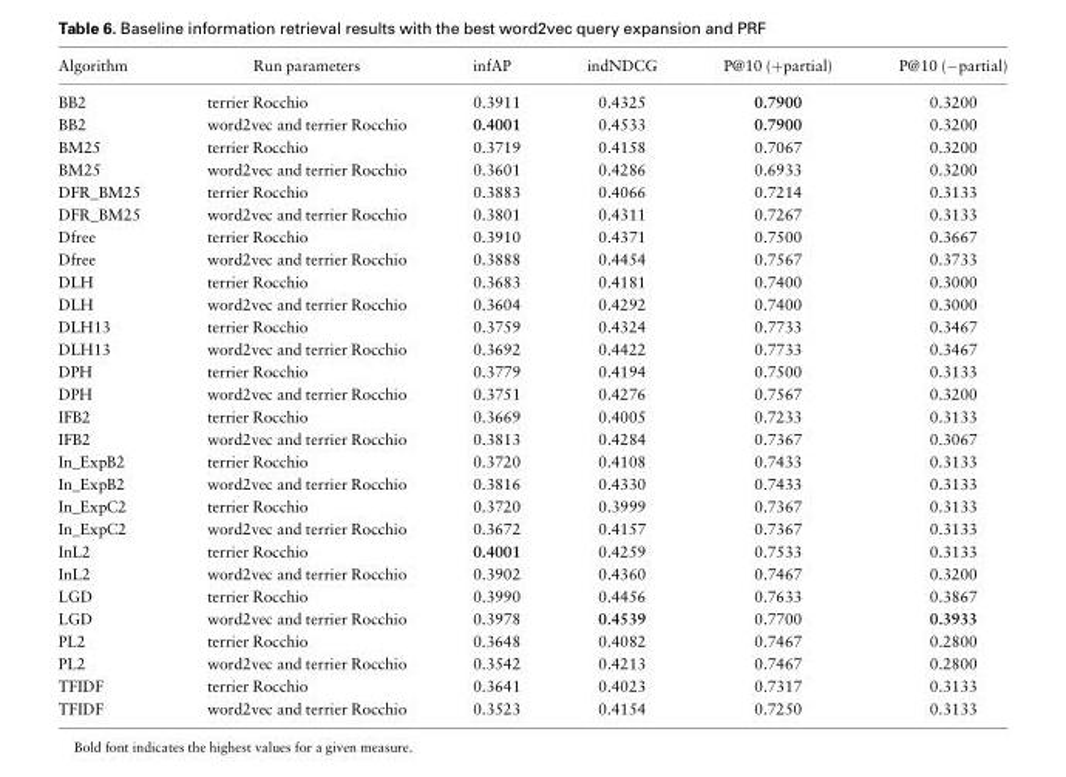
<table><thead><tr><td>Algorithm</td><td>Run parameters</td><td>infAP</td><td>indNDCG</td><td>P@10 (+partial)</td><td>P@10 (−partial)</td></tr></thead><tbody><tr><td>BB2</td><td>terrier Rocchio</td><td>0.3911</td><td>0.4325</td><td>0.7900</td><td>0.3200</td></tr><tr><td>BB2</td><td>word2vec and terrier Rocchio</td><td>0.4001</td><td>0.4533</td><td>0.7900</td><td>0.3200</td></tr><tr><td>BM25</td><td>terrier Rocchio</td><td>0.3719</td><td>0.4158</td><td>0.7067</td><td>0.3200</td></tr><tr><td>BM25</td><td>word2vec and terrier Rocchio</td><td>0.3601</td><td>0.4286</td><td>0.6933</td><td>0.3200</td></tr><tr><td>DFR_BM25</td><td>terrier Rocchio</td><td>0.3883</td><td>0.4066</td><td>0.7214</td><td>0.3133</td></tr><tr><td>DFR_BM25</td><td>word2vec and terrier Rocchio</td><td>0.3801</td><td>0.4311</td><td>0.7267</td><td>0.3133</td></tr><tr><td>Dfree</td><td>terrier Rocchio</td><td>0.3910</td><td>0.4371</td><td>0.7500</td><td>0.3667</td></tr><tr><td>Dfree</td><td>word2vec and terrier Rocchio</td><td>0.3888</td><td>0.4454</td><td>0.7567</td><td>0.3733</td></tr><tr><td>DLH</td><td>terrier Rocchio</td><td>0.3683</td><td>0.4181</td><td>0.7400</td><td>0.3000</td></tr><tr><td>DLH</td><td>word2vec and terrier Rocchio</td><td>0.3604</td><td>0.4292</td><td>0.7400</td><td>0.3000</td></tr><tr><td>DLH13</td><td>terrier Rocchio</td><td>0.3759</td><td>0.4324</td><td>0.7733</td><td>0.3467</td></tr><tr><td>DLH13</td><td>word2vec and terrier Rocchio</td><td>0.3692</td><td>0.4422</td><td>0.7733</td><td>0.3467</td></tr><tr><td>DPH</td><td>terrier Rocchio</td><td>0.3779</td><td>0.4194</td><td>0.7500</td><td>0.3133</td></tr><tr><td>DPH</td><td>word2vec and terrier Rocchio</td><td>0.3751</td><td>0.4276</td><td>0.7567</td><td>0.3200</td></tr><tr><td>IFB2</td><td>terrier Rocchio</td><td>0.3669</td><td>0.4005</td><td>0.7233</td><td>0.3133</td></tr><tr><td>IFB2</td><td>word2vec and terrier Rocchio</td><td>0.3813</td><td>0.4284</td><td>0.7367</td><td>0.3067</td></tr><tr><td>In_ExpB2</td><td>terrier Rocchio</td><td>0.3720</td><td>0.4108</td><td>0.7433</td><td>0.3133</td></tr><tr><td>In_ExpB2</td><td>word2vec and terrier Rocchio</td><td>0.3816</td><td>0.4330</td><td>0.7433</td><td>0.3133</td></tr><tr><td>In_ExpC2</td><td>terrier Rocchio</td><td>0.3720</td><td>0.3999</td><td>0.7367</td><td>0.3133</td></tr><tr><td>In_ExpC2</td><td>word2vec and terrier Rocchio</td><td>0.3672</td><td>0.4157</td><td>0.7367</td><td>0.3133</td></tr><tr><td>InL2</td><td>terrier Rocchio</td><td>0.4001</td><td>0.4259</td><td>0.7533</td><td>0.3133</td></tr><tr><td>InL2</td><td>word2vec and terrier Rocchio</td><td>0.3902</td><td>0.4360</td><td>0.7467</td><td>0.3200</td></tr><tr><td>LGD</td><td>terrier Rocchio</td><td>0.3990</td><td>0.4456</td><td>0.7633</td><td>0.3867</td></tr><tr><td>LGD</td><td>word2vec and terrier Rocchio</td><td>0.3978</td><td>0.4539</td><td>0.7700</td><td>0.3933</td></tr><tr><td>PL2</td><td>terrier Rocchio</td><td>0.3648</td><td>0.4082</td><td>0.7467</td><td>0.2800</td></tr><tr><td>PL2</td><td>word2vec and terrier Rocchio</td><td>0.3542</td><td>0.4213</td><td>0.7467</td><td>0.2800</td></tr><tr><td>TFIDF</td><td>terrier Rocchio</td><td>0.3641</td><td>0.4023</td><td>0.7317</td><td>0.3133</td></tr><tr><td>TFIDF</td><td>word2vec and terrier Rocchio</td><td>0.3523</td><td>0.4154</td><td>0.7250</td><td>0.3133</td></tr></tbody></table>